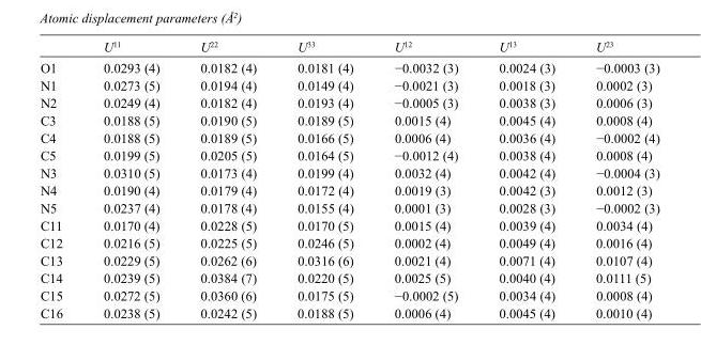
<table><thead><tr><td></td><td>U<sup>11</sup></td><td>U<sup>22</sup></td><td>U<sup>33</sup></td><td>U<sup>12</sup></td><td>U<sup>13</sup></td><td>U<sup>23</sup></td></tr></thead><tbody><tr><td>O1</td><td>0.0293 (4)</td><td>0.0182 (4)</td><td>0.0181 (4)</td><td>−0.0032 (3)</td><td>0.0024 (3)</td><td>−0.0003 (3)</td></tr><tr><td>N1</td><td>0.0273 (5)</td><td>0.0194 (4)</td><td>0.0149 (4)</td><td>−0.0021 (3)</td><td>0.0018 (3)</td><td>0.0002 (3)</td></tr><tr><td>N2</td><td>0.0249 (4)</td><td>0.0182 (4)</td><td>0.0193 (4)</td><td>−0.0005 (3)</td><td>0.0038 (3)</td><td>0.0006 (3)</td></tr><tr><td>C3</td><td>0.0188 (5)</td><td>0.0190 (5)</td><td>0.0189 (5)</td><td>0.0015 (4)</td><td>0.0045 (4)</td><td>0.0008 (4)</td></tr><tr><td>C4</td><td>0.0188 (5)</td><td>0.0189 (5)</td><td>0.0166 (5)</td><td>0.0006 (4)</td><td>0.0036 (4)</td><td>−0.0002 (4)</td></tr><tr><td>C5</td><td>0.0199 (5)</td><td>0.0205 (5)</td><td>0.0164 (5)</td><td>−0.0012 (4)</td><td>0.0038 (4)</td><td>0.0008 (4)</td></tr><tr><td>N3</td><td>0.0310 (5)</td><td>0.0173 (4)</td><td>0.0199 (4)</td><td>0.0032 (4)</td><td>0.0042 (4)</td><td>−0.0004 (3)</td></tr><tr><td>N4</td><td>0.0190 (4)</td><td>0.0179 (4)</td><td>0.0172 (4)</td><td>0.0019 (3)</td><td>0.0042 (3)</td><td>0.0012 (3)</td></tr><tr><td>N5</td><td>0.0237 (4)</td><td>0.0178 (4)</td><td>0.0155 (4)</td><td>0.0001 (3)</td><td>0.0028 (3)</td><td>−0.0002 (3)</td></tr><tr><td>C11</td><td>0.0170 (4)</td><td>0.0228 (5)</td><td>0.0170 (5)</td><td>0.0015 (4)</td><td>0.0039 (4)</td><td>0.0034 (4)</td></tr><tr><td>C12</td><td>0.0216 (5)</td><td>0.0225 (5)</td><td>0.0246 (5)</td><td>0.0002 (4)</td><td>0.0049 (4)</td><td>0.0016 (4)</td></tr><tr><td>C13</td><td>0.0229 (5)</td><td>0.0262 (6)</td><td>0.0316 (6)</td><td>0.0021 (4)</td><td>0.0071 (4)</td><td>0.0107 (4)</td></tr><tr><td>C14</td><td>0.0239 (5)</td><td>0.0384 (7)</td><td>0.0220 (5)</td><td>0.0025 (5)</td><td>0.0040 (4)</td><td>0.0111 (5)</td></tr><tr><td>C15</td><td>0.0272 (5)</td><td>0.0360 (6)</td><td>0.0175 (5)</td><td>−0.0002 (5)</td><td>0.0034 (4)</td><td>0.0008 (4)</td></tr><tr><td>C16</td><td>0.0238 (5)</td><td>0.0242 (5)</td><td>0.0188 (5)</td><td>0.0006 (4)</td><td>0.0045 (4)</td><td>0.0010 (4)</td></tr></tbody></table>